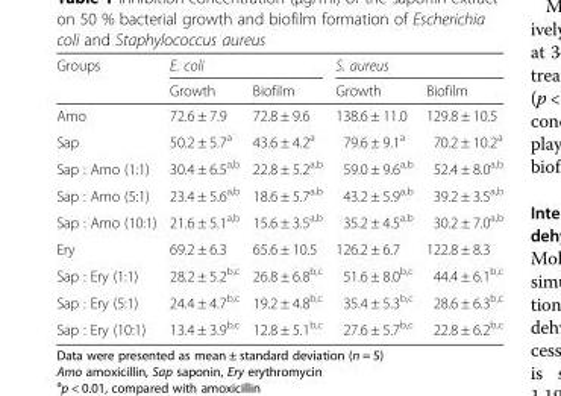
<table><thead><tr><td rowspan="2">Groups</td><td colspan="2">E. coli</td><td colspan="2">S. aureus</td></tr><tr><td>Growth</td><td>Biofilm</td><td>Growth</td><td>Biofilm</td></tr></thead><tbody><tr><td>Amo</td><td>72.6 ± 7.9</td><td>72.8 ± 9.6</td><td>138.6 ± 11.0</td><td>129.8 ± 10.5</td></tr><tr><td>Sap</td><td>50.2 ± 5.7<sup>a</sup></td><td>43.6 ± 4.2<sup>a</sup></td><td>79.6 ± 9.1<sup>a</sup></td><td>70.2 ± 10.2<sup>a</sup></td></tr><tr><td>Sap : Amo (1:1)</td><td>30.4 ± 6.5<sup>a,b</sup></td><td>22.8 ± 5.2<sup>a,b</sup></td><td>59.0 ± 9.6<sup>a,b</sup></td><td>52.4 ± 8.0<sup>a,b</sup></td></tr><tr><td>Sap : Amo (5:1)</td><td>23.4 ± 5.6<sup>a,b</sup></td><td>18.6 ± 5.7<sup>a,b</sup></td><td>43.2 ± 5.9<sup>a,b</sup></td><td>39.2 ± 3.5<sup>a,b</sup></td></tr><tr><td>Sap : Amo (10:1)</td><td>21.6 ± 5.1<sup>a,b</sup></td><td>15.6 ± 3.5<sup>a,b</sup></td><td>35.2 ± 4.5<sup>a,b</sup></td><td>30.2 ± 7.0<sup>a,b</sup></td></tr><tr><td>Ery</td><td>69.2 ± 6.3</td><td>65.6 ± 10.5</td><td>126.2 ± 6.7</td><td>122.8 ± 8.3</td></tr><tr><td>Sap : Ery (1:1)</td><td>28.2 ± 5.2<sup>b,c</sup></td><td>26.8 ± 6.8<sup>b,c</sup></td><td>51.6 ± 8.0<sup>b,c</sup></td><td>44.4 ± 6.1<sup>b,c</sup></td></tr><tr><td>Sap : Ery (5:1)</td><td>24.4 ± 4.7<sup>b,c</sup></td><td>19.2 ± 4.8<sup>b,c</sup></td><td>35.4 ± 5.3<sup>b,c</sup></td><td>28.6 ± 6.3<sup>b,c</sup></td></tr><tr><td>Sap : Ery (10:1)</td><td>13.4 ± 3.9<sup>b,c</sup></td><td>12.8 ± 5.1<sup>b,c</sup></td><td>27.6 ± 5.7<sup>b,c</sup></td><td>22.8 ± 6.2<sup>b,c</sup></td></tr></tbody></table>